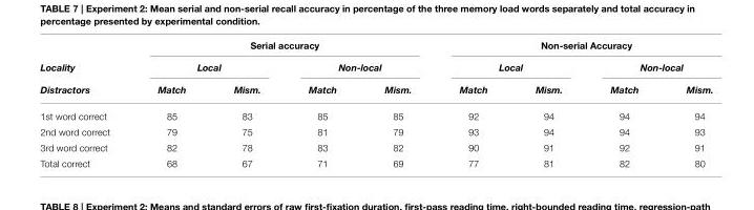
<table><thead><tr><td rowspan="3">Locality Distractors</td><td colspan="4">Serial accuracy</td><td colspan="4">Non-serial Accuracy</td></tr><tr><td colspan="2">Local</td><td colspan="2">Non-local</td><td colspan="2">Local</td><td colspan="2">Non-local</td></tr><tr><td>Match</td><td>Mism.</td><td>Match</td><td>Mism.</td><td>Match</td><td>Mism.</td><td>Match</td><td>Mism.</td></tr></thead><tbody><tr><td>1st word correct</td><td>85</td><td>83</td><td>85</td><td>85</td><td>92</td><td>94</td><td>94</td><td>94</td></tr><tr><td>2nd word correct</td><td>79</td><td>75</td><td>81</td><td>79</td><td>93</td><td>94</td><td>94</td><td>93</td></tr><tr><td>3rd word correct</td><td>82</td><td>78</td><td>83</td><td>82</td><td>90</td><td>91</td><td>92</td><td>91</td></tr><tr><td>Total correct</td><td>68</td><td>67</td><td>71</td><td>69</td><td>77</td><td>81</td><td>82</td><td>80</td></tr></tbody></table>